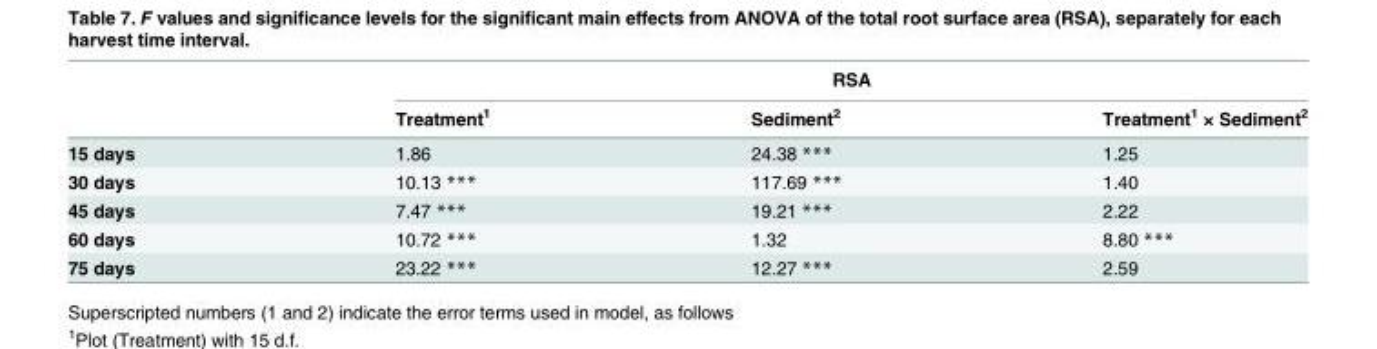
<table><thead><tr><td rowspan="2"></td><td colspan="3">RSA</td></tr><tr><td>Treatment<sup>1</sup></td><td>Sediment<sup>2</sup></td><td>Treatment<sup>1</sup> × Sediment<sup>2</sup></td></tr></thead><tbody><tr><td>15 days</td><td>1.86</td><td>24.38 ***</td><td>1.25</td></tr><tr><td>30 days</td><td>10.13 ***</td><td>117.69 ***</td><td>1.40</td></tr><tr><td>45 days</td><td>7.47 ***</td><td>19.21 ***</td><td>2.22</td></tr><tr><td>60 days</td><td>10.72 ***</td><td>1.32</td><td>8.80 ***</td></tr><tr><td>75 days</td><td>23.22 ***</td><td>12.27 ***</td><td>2.59</td></tr></tbody></table>